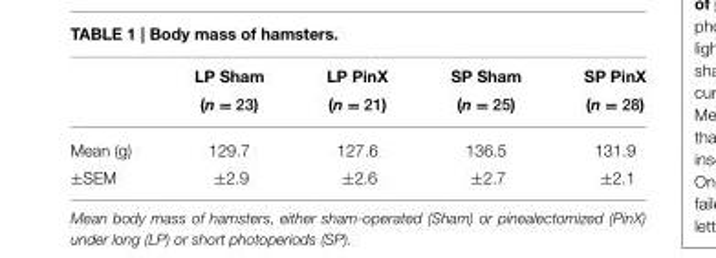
<table><thead><tr><td></td><td>LP Sham (n = 23)</td><td>LP PinX (n = 21)</td><td>SP Sham (n = 25)</td><td>SP PinX (n = 28)</td></tr></thead><tbody><tr><td>Mean (g)</td><td>129.7</td><td>127.6</td><td>136.5</td><td>131.9</td></tr><tr><td>±SEM</td><td>±2.9</td><td>±2.6</td><td>±2.7</td><td>±2.1</td></tr></tbody></table>